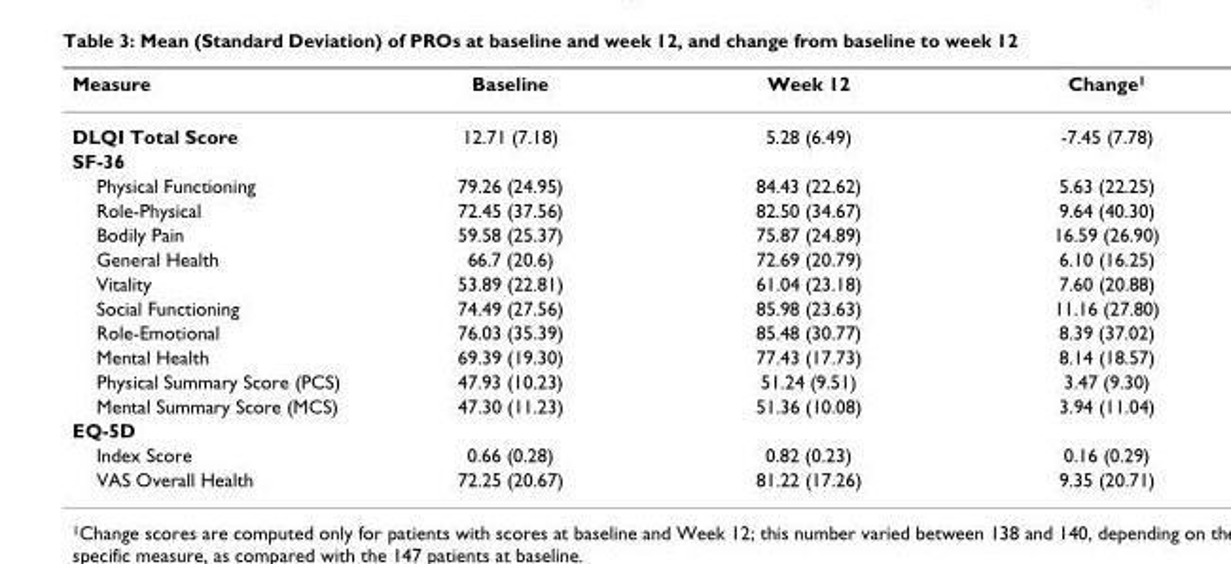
<table><thead><tr><td>Measure</td><td>Baseline</td><td>Week 12</td><td>Change<sup>1</sup></td></tr></thead><tbody><tr><td>DLQI Total Score</td><td>12.71 (7.18)</td><td>5.28 (6.49)</td><td>-7.45 (7.78)</td></tr><tr><td colspan="4">SF-36</td></tr><tr><td>Physical Functioning</td><td>79.26 (24.95)</td><td>84.43 (22.62)</td><td>5.63 (22.25)</td></tr><tr><td>Role-Physical</td><td>72.45 (37.56)</td><td>82.50 (34.67)</td><td>9.64 (40.30)</td></tr><tr><td>Bodily Pain</td><td>59.58 (25.37)</td><td>75.87 (24.89)</td><td>16.59 (26.90)</td></tr><tr><td>General Health</td><td>66.7 (20.6)</td><td>72.69 (20.79)</td><td>6.10 (16.25)</td></tr><tr><td>Vitality</td><td>53.89 (22.81)</td><td>61.04 (23.18)</td><td>7.60 (20.88)</td></tr><tr><td>Social Functioning</td><td>74.49 (27.56)</td><td>85.98 (23.63)</td><td>11.16 (27.80)</td></tr><tr><td>Role-Emotional</td><td>76.03 (35.39)</td><td>85.48 (30.77)</td><td>8.39 (37.02)</td></tr><tr><td>Mental Health</td><td>69.39 (19.30)</td><td>77.43 (17.73)</td><td>8.14 (18.57)</td></tr><tr><td>Physical Summary Score (PCS)</td><td>47.93 (10.23)</td><td>51.24 (9.51)</td><td>3.47 (9.30)</td></tr><tr><td>Mental Summary Score (MCS)</td><td>47.30 (11.23)</td><td>51.36 (10.08)</td><td>3.94 (11.04)</td></tr><tr><td colspan="4">EQ-5D</td></tr><tr><td>Index Score</td><td>0.66 (0.28)</td><td>0.82 (0.23)</td><td>0.16 (0.29)</td></tr><tr><td>VAS Overall Health</td><td>72.25 (20.67)</td><td>81.22 (17.26)</td><td>9.35 (20.71)</td></tr></tbody></table>